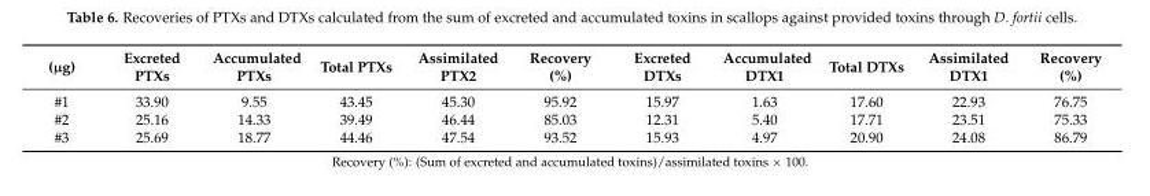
<table><thead><tr><td>(µg)</td><td>Excreted PTXs</td><td>Accumulated PTXs</td><td>Total PTXs</td><td>Assimilated PTX2</td><td>Recovery (%)</td><td>Excreted DTXs</td><td>Accumulated DTX1</td><td>Total DTXs</td><td>Assimilated DTX1</td><td>Recovery (%)</td></tr></thead><tbody><tr><td>#1</td><td>33.90</td><td>9.55</td><td>43.45</td><td>45.30</td><td>95.92</td><td>15.97</td><td>1.63</td><td>17.60</td><td>22.93</td><td>76.75</td></tr><tr><td>#2</td><td>25.16</td><td>14.33</td><td>39.49</td><td>46.44</td><td>85.03</td><td>12.31</td><td>5.40</td><td>17.71</td><td>23.51</td><td>75.33</td></tr><tr><td>#3</td><td>25.69</td><td>18.77</td><td>44.46</td><td>47.54</td><td>93.52</td><td>15.93</td><td>4.97</td><td>20.90</td><td>24.08</td><td>86.79</td></tr></tbody></table>